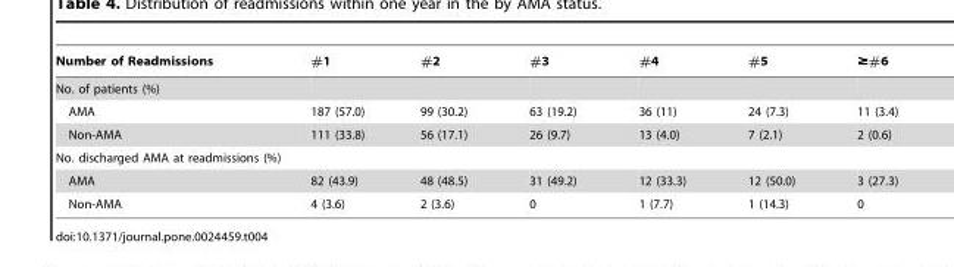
<table><thead><tr><td>Number of Readmissions</td><td>#1</td><td>#2</td><td>#3</td><td>#4</td><td>#5</td><td>≥#6</td></tr></thead><tbody><tr><td colspan="7">No. of patients (%)</td></tr><tr><td>AMA</td><td>187 (57.0)</td><td>99 (30.2)</td><td>63 (19.2)</td><td>36 (11)</td><td>24 (7.3)</td><td>11 (3.4)</td></tr><tr><td>Non-AMA</td><td>111 (33.8)</td><td>56 (17.1)</td><td>26 (9.7)</td><td>13 (4.0)</td><td>7 (2.1)</td><td>2 (0.6)</td></tr><tr><td colspan="7">No. discharged AMA at readmissions (%)</td></tr><tr><td>AMA</td><td>82 (43.9)</td><td>48 (48.5)</td><td>31 (49.2)</td><td>12 (33.3)</td><td>12 (50.0)</td><td>3 (27.3)</td></tr><tr><td>Non-AMA</td><td>4 (3.6)</td><td>2 (3.6)</td><td>0</td><td>1 (7.7)</td><td>1 (14.3)</td><td>0</td></tr></tbody></table>